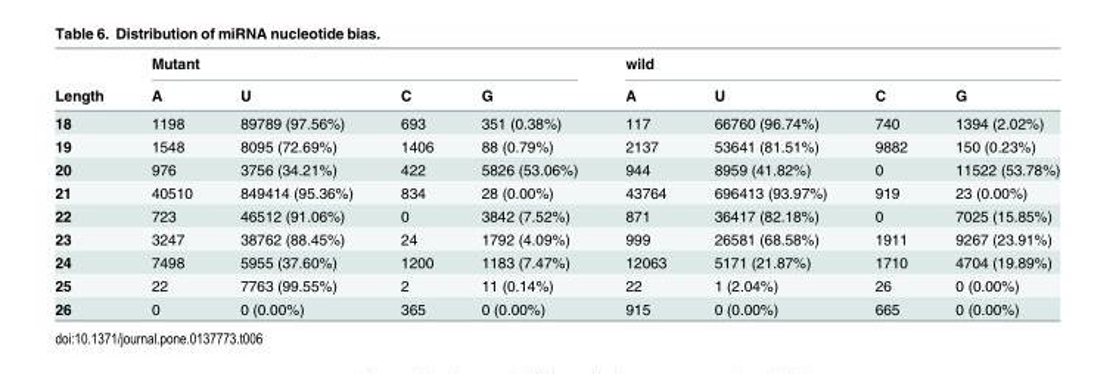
<table><thead><tr><td rowspan="2">Length</td><td colspan="4">Mutant</td><td colspan="4">wild</td></tr><tr><td>A</td><td>U</td><td>C</td><td>G</td><td>A</td><td>U</td><td>C</td><td>G</td></tr></thead><tbody><tr><td>18</td><td>1198</td><td>89789 (97.56%)</td><td>693</td><td>351 (0.38%)</td><td>117</td><td>66760 (96.74%)</td><td>740</td><td>1394 (2.02%)</td></tr><tr><td>19</td><td>1548</td><td>8095 (72.69%)</td><td>1406</td><td>88 (0.79%)</td><td>2137</td><td>53641 (81.51%)</td><td>9882</td><td>150 (0.23%)</td></tr><tr><td>20</td><td>976</td><td>3756 (34.21%)</td><td>422</td><td>5826 (53.06%)</td><td>944</td><td>8959 (41.82%)</td><td>0</td><td>11522 (53.78%)</td></tr><tr><td>21</td><td>40510</td><td>849414 (95.36%)</td><td>834</td><td>28 (0.00%)</td><td>43764</td><td>696413 (93.97%)</td><td>919</td><td>23 (0.00%)</td></tr><tr><td>22</td><td>723</td><td>46512 (91.06%)</td><td>0</td><td>3842 (7.52%)</td><td>871</td><td>36417 (82.18%)</td><td>0</td><td>7025 (15.85%)</td></tr><tr><td>23</td><td>3247</td><td>38762 (88.45%)</td><td>24</td><td>1792 (4.09%)</td><td>999</td><td>26581 (68.58%)</td><td>1911</td><td>9267 (23.91%)</td></tr><tr><td>24</td><td>7498</td><td>5955 (37.60%)</td><td>1200</td><td>1183 (7.47%)</td><td>12063</td><td>5171 (21.87%)</td><td>1710</td><td>4704 (19.89%)</td></tr><tr><td>25</td><td>22</td><td>7763 (99.55%)</td><td>2</td><td>11 (0.14%)</td><td>22</td><td>1 (2.04%)</td><td>26</td><td>0 (0.00%)</td></tr><tr><td>26</td><td>0</td><td>0 (0.00%)</td><td>365</td><td>0 (0.00%)</td><td>915</td><td>0 (0.00%)</td><td>665</td><td>0 (0.00%)</td></tr></tbody></table>